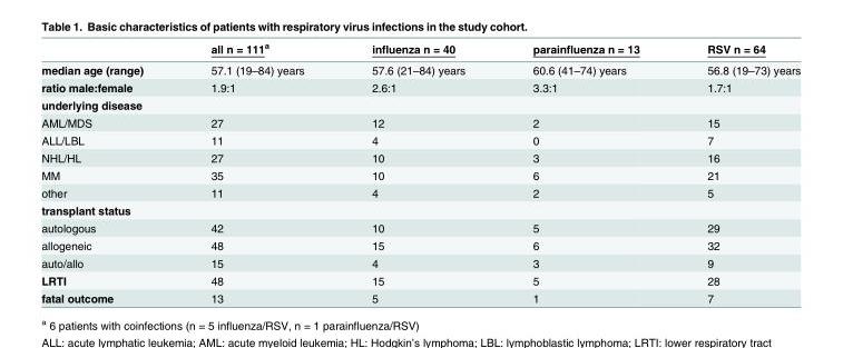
<table><thead><tr><td></td><td>all n = 111<sup>a</sup></td><td>influenza n = 40</td><td>parainfluenza n = 13</td><td>RSV n = 64</td></tr></thead><tbody><tr><td>median age (range)</td><td>57.1 (19–84) years</td><td>57.6 (21–84) years</td><td>60.6 (41–74) years</td><td>56.8 (19–73) years</td></tr><tr><td>ratio male:female</td><td>1.9:1</td><td>2.6:1</td><td>3.3:1</td><td>1.7:1</td></tr><tr><td colspan="5">underlying disease</td></tr><tr><td>AML/MDS</td><td>27</td><td>12</td><td>2</td><td>15</td></tr><tr><td>ALL/LBL</td><td>11</td><td>4</td><td>0</td><td>7</td></tr><tr><td>NHL/HL</td><td>27</td><td>10</td><td>3</td><td>16</td></tr><tr><td>MM</td><td>35</td><td>10</td><td>6</td><td>21</td></tr><tr><td>other</td><td>11</td><td>4</td><td>2</td><td>5</td></tr><tr><td colspan="5">transplant status</td></tr><tr><td>autologous</td><td>42</td><td>10</td><td>5</td><td>29</td></tr><tr><td>allogeneic</td><td>48</td><td>15</td><td>6</td><td>32</td></tr><tr><td>auto/allo</td><td>15</td><td>4</td><td>3</td><td>9</td></tr><tr><td>LRTI</td><td>48</td><td>15</td><td>5</td><td>28</td></tr><tr><td>fatal outcome</td><td>13</td><td>5</td><td>1</td><td>7</td></tr></tbody></table>